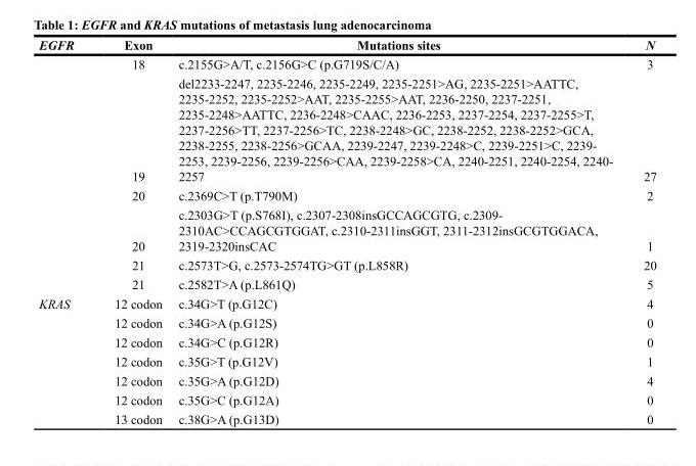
<table><thead><tr><td>EGFR</td><td>Exon</td><td>Mutations sites</td><td>N</td></tr></thead><tbody><tr><td></td><td>18</td><td>c.2155G&gt;A/T, c.2156G&gt;C (p.G719S/C/A)</td><td>3</td></tr><tr><td></td><td>19</td><td>del2233-2247, 2235-2246, 2235-2249, 2235-2251&gt;AG, 2235-2251&gt;AATTC, 2235-2252, 2235-2252&gt;AAT, 2235-2255&gt;AAT, 2236-2250, 2237-2251, 2235-2248&gt;AATTC, 2236-2248&gt;CAAC, 2236-2253, 2237-2254, 2237-2255&gt;T, 2237-2256&gt;TT, 2237-2256&gt;TC, 2238-2248&gt;GC, 2238-2252, 2238-2252&gt;GCA, 2238-2255, 2238-2256&gt;GCAA, 2239-2247, 2239-2248&gt;C, 2239-2251&gt;C, 2239- 2253, 2239-2256, 2239-2256&gt;CAA, 2239-2258&gt;CA, 2240-2251, 2240-2254, 2240- 2257</td><td>27</td></tr><tr><td></td><td>20</td><td>c.2369C&gt;T (p.T790M)</td><td>2</td></tr><tr><td></td><td>20</td><td>c.2303G&gt;T (p.S768I), c.2307-2308insGCCAGCGTG, c.2309- 2310AC&gt;CCAGCGTGGAT, c.2310-2311insGGT, 2311-2312insGCGTGGACA, 2319-2320insCAC</td><td>1</td></tr><tr><td></td><td>21</td><td>c.2573T&gt;G, c.2573-2574TG&gt;GT (p.L858R)</td><td>20</td></tr><tr><td></td><td>21</td><td>c.2582T&gt;A (p.L861Q)</td><td>5</td></tr><tr><td rowspan="7">KRAS</td><td>12 codon</td><td>c.34G&gt;T (p.G12C)</td><td>4</td></tr><tr><td>12 codon</td><td>c.34G&gt;A (p.G12S)</td><td>0</td></tr><tr><td>12 codon</td><td>c.34G&gt;C (p.G12R)</td><td>0</td></tr><tr><td>12 codon</td><td>c.35G&gt;T (p.G12V)</td><td>1</td></tr><tr><td>12 codon</td><td>c.35G&gt;A (p.G12D)</td><td>4</td></tr><tr><td>12 codon</td><td>c.35G&gt;C (p.G12A)</td><td>0</td></tr><tr><td>13 codon</td><td>c.38G&gt;A (p.G13D)</td><td>0</td></tr></tbody></table>